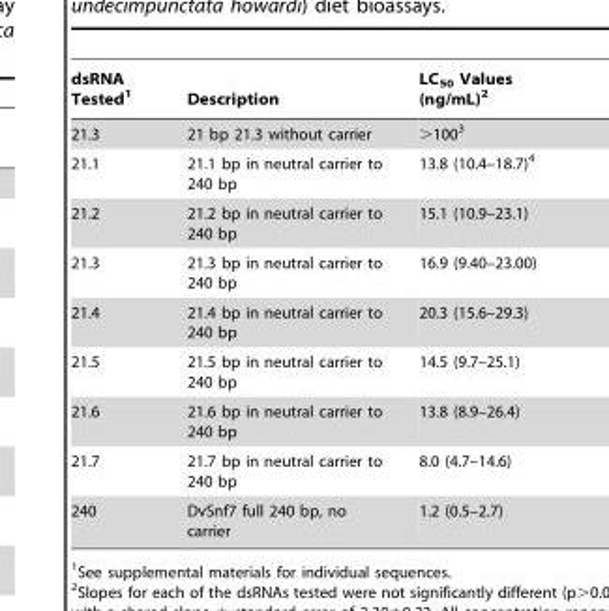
<table><thead><tr><td>dsRNA Tested<sup>1</sup></td><td>Description</td><td>LC<sub>50</sub> Values (ng/mL)<sup>2</sup></td></tr></thead><tbody><tr><td>21.3</td><td>21 bp 21.3 without carrier</td><td>&gt;100<sup>3</sup></td></tr><tr><td>21.1</td><td>21.1 bp in neutral carrier to 240 bp</td><td>13.8 (10.4–18.7)<sup>4</sup></td></tr><tr><td>21.2</td><td>21.2 bp in neutral carrier to 240 bp</td><td>15.1 (10.9–23.1)</td></tr><tr><td>21.3</td><td>21.3 bp in neutral carrier to 240 bp</td><td>16.9 (9.40–23.00)</td></tr><tr><td>21.4</td><td>21.4 bp in neutral carrier to 240 bp</td><td>20.3 (15.6–29.3)</td></tr><tr><td>21.5</td><td>21.5 bp in neutral carrier to 240 bp</td><td>14.5 (9.7–25.1)</td></tr><tr><td>21.6</td><td>21.6 bp in neutral carrier to 240 bp</td><td>13.8 (8.9–26.4)</td></tr><tr><td>21.7</td><td>21.7 bp in neutral carrier to 240 bp</td><td>8.0 (4.7–14.6)</td></tr><tr><td>240</td><td>DvSnf7 full 240 bp, no carrier</td><td>1.2 (0.5–2.7)</td></tr></tbody></table>